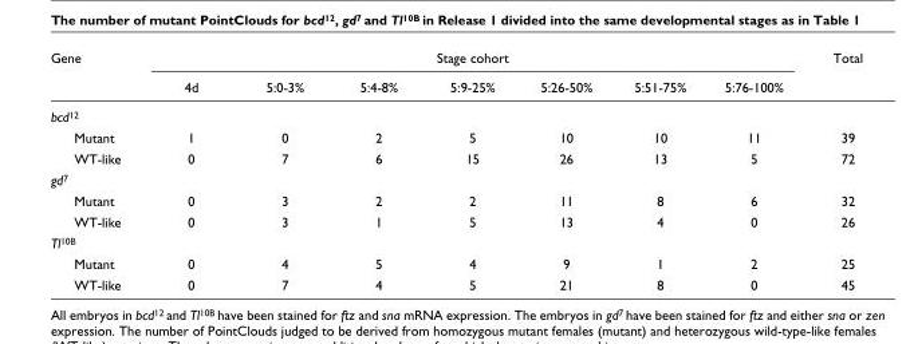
<table><thead><tr><td rowspan="2">Gene</td><td colspan="7">Stage cohort</td><td rowspan="2">Total</td></tr><tr><td>4d</td><td>5:0-3%</td><td>5:4-8%</td><td>5:9-25%</td><td>5:26-50%</td><td>5:51-75%</td><td>5:76-100%</td></tr></thead><tbody><tr><td colspan="9">bcd12</td></tr><tr><td>Mutant</td><td>1</td><td>0</td><td>2</td><td>5</td><td>10</td><td>10</td><td>11</td><td>39</td></tr><tr><td>WT-like</td><td>0</td><td>7</td><td>6</td><td>15</td><td>26</td><td>13</td><td>5</td><td>72</td></tr><tr><td colspan="9">gd7</td></tr><tr><td>Mutant</td><td>0</td><td>3</td><td>2</td><td>2</td><td>11</td><td>8</td><td>6</td><td>32</td></tr><tr><td>WT-like</td><td>0</td><td>3</td><td>1</td><td>5</td><td>13</td><td>4</td><td>0</td><td>26</td></tr><tr><td colspan="9">Tl10B</td></tr><tr><td>Mutant</td><td>0</td><td>4</td><td>5</td><td>4</td><td>9</td><td>1</td><td>2</td><td>25</td></tr><tr><td>WT-like</td><td>0</td><td>7</td><td>4</td><td>5</td><td>21</td><td>8</td><td>0</td><td>45</td></tr></tbody></table>